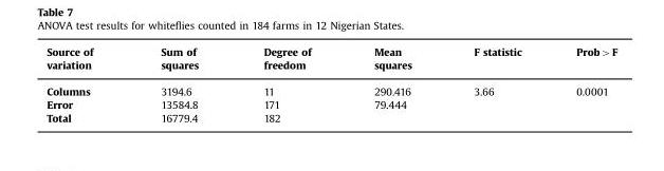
<table><thead><tr><td>Source of variation</td><td>Sum of squares</td><td>Degree of freedom</td><td>Mean squares</td><td>F statistic</td><td>Prob&gt;F</td></tr></thead><tbody><tr><td>Columns</td><td>3194.6</td><td>11</td><td>290.416</td><td>3.66</td><td>0.0001</td></tr><tr><td>Error</td><td>13584.8</td><td>171</td><td>79.444</td><td></td><td></td></tr><tr><td>Total</td><td>16779.4</td><td>182</td><td></td><td></td><td></td></tr></tbody></table>